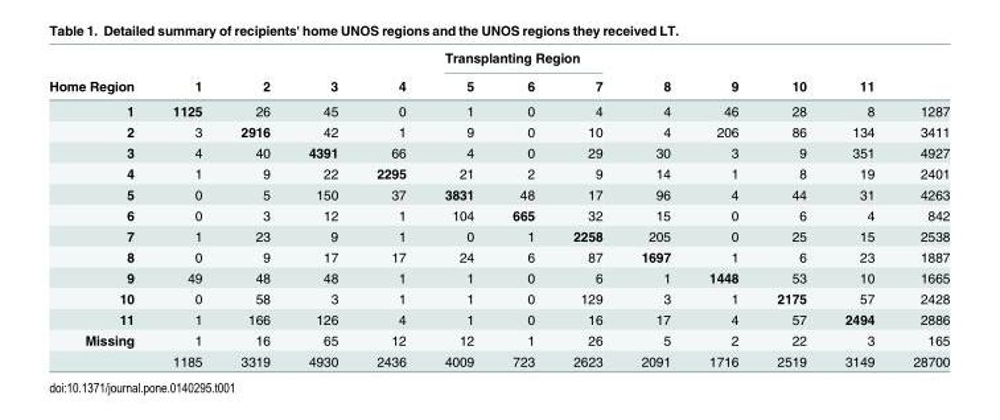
<table><thead><tr><td rowspan="2">Home Region</td><td rowspan="2">1</td><td rowspan="2">2</td><td rowspan="2">3</td><td rowspan="2">4</td><td colspan="3">Transplanting Region</td><td rowspan="2">8</td><td rowspan="2">9</td><td rowspan="2">10</td><td rowspan="2">11</td><td rowspan="2"></td></tr><tr><td>5</td><td>6</td><td>7</td></tr></thead><tbody><tr><td>1</td><td>1125</td><td>26</td><td>45</td><td>0</td><td>1</td><td>0</td><td>4</td><td>4</td><td>46</td><td>28</td><td>8</td><td>1287</td></tr><tr><td>2</td><td>3</td><td>2916</td><td>42</td><td>1</td><td>9</td><td>0</td><td>10</td><td>4</td><td>206</td><td>86</td><td>134</td><td>3411</td></tr><tr><td>3</td><td>4</td><td>40</td><td>4391</td><td>66</td><td>4</td><td>0</td><td>29</td><td>30</td><td>3</td><td>9</td><td>351</td><td>4927</td></tr><tr><td>4</td><td>1</td><td>9</td><td>22</td><td>2295</td><td>21</td><td>2</td><td>9</td><td>14</td><td>1</td><td>8</td><td>19</td><td>2401</td></tr><tr><td>5</td><td>0</td><td>5</td><td>150</td><td>37</td><td>3831</td><td>48</td><td>17</td><td>96</td><td>4</td><td>44</td><td>31</td><td>4263</td></tr><tr><td>6</td><td>0</td><td>3</td><td>12</td><td>1</td><td>104</td><td>665</td><td>32</td><td>15</td><td>0</td><td>6</td><td>4</td><td>842</td></tr><tr><td>7</td><td>1</td><td>23</td><td>9</td><td>1</td><td>0</td><td>1</td><td>2258</td><td>205</td><td>0</td><td>25</td><td>15</td><td>2538</td></tr><tr><td>8</td><td>0</td><td>9</td><td>17</td><td>17</td><td>24</td><td>6</td><td>87</td><td>1697</td><td>1</td><td>6</td><td>23</td><td>1887</td></tr><tr><td>9</td><td>49</td><td>48</td><td>48</td><td>1</td><td>1</td><td>0</td><td>6</td><td>1</td><td>1448</td><td>53</td><td>10</td><td>1665</td></tr><tr><td>10</td><td>0</td><td>58</td><td>3</td><td>1</td><td>1</td><td>0</td><td>129</td><td>3</td><td>1</td><td>2175</td><td>57</td><td>2428</td></tr><tr><td>11</td><td>1</td><td>166</td><td>126</td><td>4</td><td>1</td><td>0</td><td>16</td><td>17</td><td>4</td><td>57</td><td>2494</td><td>2886</td></tr><tr><td rowspan="2">Missing</td><td>1</td><td>16</td><td>65</td><td>12</td><td>12</td><td>1</td><td>26</td><td>5</td><td>2</td><td>22</td><td>3</td><td>165</td></tr><tr><td>1185</td><td>3319</td><td>4930</td><td>2436</td><td>4009</td><td>723</td><td>2623</td><td>2091</td><td>1716</td><td>2519</td><td>3149</td><td>28700</td></tr></tbody></table>